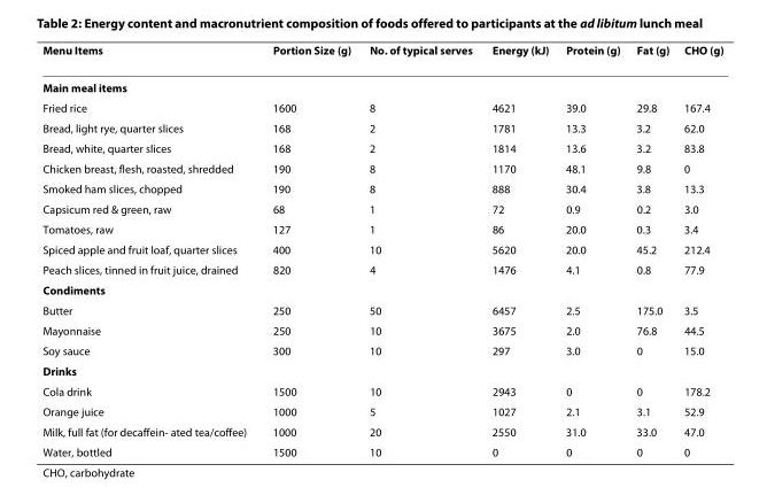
<table><thead><tr><td>Menu Items</td><td>Portion Size (g)</td><td>No. of typical serves</td><td>Energy (kJ)</td><td>Protein (g)</td><td>Fat (g)</td><td>CHO (g)</td></tr></thead><tbody><tr><td colspan="7">Main meal items</td></tr><tr><td>Fried rice</td><td>1600</td><td>8</td><td>4621</td><td>39.0</td><td>29.8</td><td>167.4</td></tr><tr><td>Bread, light rye, quarter slices</td><td>168</td><td>2</td><td>1781</td><td>13.3</td><td>3.2</td><td>62.0</td></tr><tr><td>Bread, white, quarter slices</td><td>168</td><td>2</td><td>1814</td><td>13.6</td><td>3.2</td><td>83.8</td></tr><tr><td>Chicken breast, flesh, roasted, shredded</td><td>190</td><td>8</td><td>1170</td><td>48.1</td><td>9.8</td><td>0</td></tr><tr><td>Smoked ham slices, chopped</td><td>190</td><td>8</td><td>888</td><td>30.4</td><td>3.8</td><td>13.3</td></tr><tr><td>Capsicum red &amp; green, raw</td><td>68</td><td>1</td><td>72</td><td>0.9</td><td>0.2</td><td>3.0</td></tr><tr><td>Tomatoes, raw</td><td>127</td><td>1</td><td>86</td><td>20.0</td><td>0.3</td><td>3.4</td></tr><tr><td>Spiced apple and fruit loaf, quarter slices</td><td>400</td><td>10</td><td>5620</td><td>20.0</td><td>45.2</td><td>212.4</td></tr><tr><td>Peach slices, tinned in fruit juice, drained</td><td>820</td><td>4</td><td>1476</td><td>4.1</td><td>0.8</td><td>77.9</td></tr><tr><td colspan="7">Condiments</td></tr><tr><td>Butter</td><td>250</td><td>50</td><td>6457</td><td>2.5</td><td>175.0</td><td>3.5</td></tr><tr><td>Mayonnaise</td><td>250</td><td>10</td><td>3675</td><td>2.0</td><td>76.8</td><td>44.5</td></tr><tr><td>Soy sauce</td><td>300</td><td>10</td><td>297</td><td>3.0</td><td>0</td><td>15.0</td></tr><tr><td colspan="7">Drinks</td></tr><tr><td>Cola drink</td><td>1500</td><td>10</td><td>2943</td><td>0</td><td>0</td><td>178.2</td></tr><tr><td>Orange juice</td><td>1000</td><td>5</td><td>1027</td><td>2.1</td><td>3.1</td><td>52.9</td></tr><tr><td>Milk, full fat (for decaffein- ated tea/coffee)</td><td>1000</td><td>20</td><td>2550</td><td>31.0</td><td>33.0</td><td>47.0</td></tr><tr><td>Water, bottled</td><td>1500</td><td>10</td><td>0</td><td>0</td><td>0</td><td>0</td></tr></tbody></table>